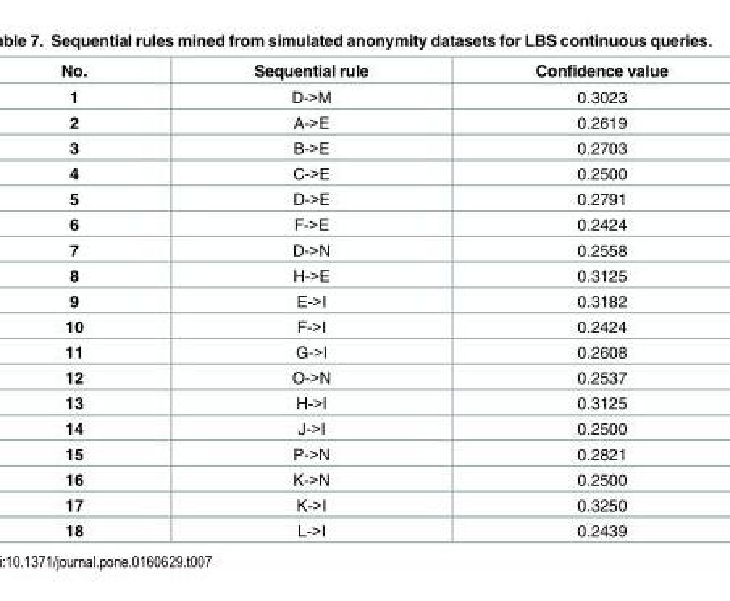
<table><thead><tr><td>No.</td><td>Sequential rule</td><td>Confidence value</td></tr></thead><tbody><tr><td>1</td><td>D-&gt;M</td><td>0.3023</td></tr><tr><td>2</td><td>A-&gt;E</td><td>0.2619</td></tr><tr><td>3</td><td>B-&gt;E</td><td>0.2703</td></tr><tr><td>4</td><td>C-&gt;E</td><td>0.2500</td></tr><tr><td>5</td><td>D-&gt;E</td><td>0.2791</td></tr><tr><td>6</td><td>F-&gt;E</td><td>0.2424</td></tr><tr><td>7</td><td>D-&gt;N</td><td>0.2558</td></tr><tr><td>8</td><td>H-&gt;E</td><td>0.3125</td></tr><tr><td>9</td><td>E-&gt;I</td><td>0.3182</td></tr><tr><td>10</td><td>F-&gt;I</td><td>0.2424</td></tr><tr><td>11</td><td>G-&gt;I</td><td>0.2608</td></tr><tr><td>12</td><td>O-&gt;N</td><td>0.2537</td></tr><tr><td>13</td><td>H-&gt;I</td><td>0.3125</td></tr><tr><td>14</td><td>J-&gt;I</td><td>0.2500</td></tr><tr><td>15</td><td>P-&gt;N</td><td>0.2821</td></tr><tr><td>16</td><td>K-&gt;N</td><td>0.2500</td></tr><tr><td>17</td><td>K-&gt;I</td><td>0.3250</td></tr><tr><td>18</td><td>L-&gt;I</td><td>0.2439</td></tr></tbody></table>